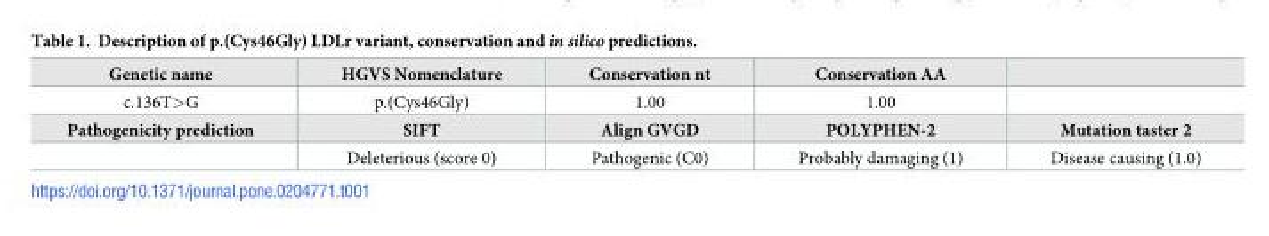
<table><tbody><tr><td>Genetic name</td><td>HGVS Nomenclature</td><td>Conservation nt</td><td>Conservation AA</td><td></td></tr><tr><td>c.136T&gt;G</td><td>p.(Cys46Gly)</td><td>1.00</td><td>1.00</td><td></td></tr><tr><td rowspan="2">Pathogenicity prediction</td><td>SIFT</td><td>Align GVGD</td><td>POLYPHEN-2</td><td>Mutation taster 2</td></tr><tr><td>Deleterious (score 0)</td><td>Pathogenic (C0)</td><td>Probably damaging (1)</td><td>Disease causing (1.0)</td></tr></tbody></table>